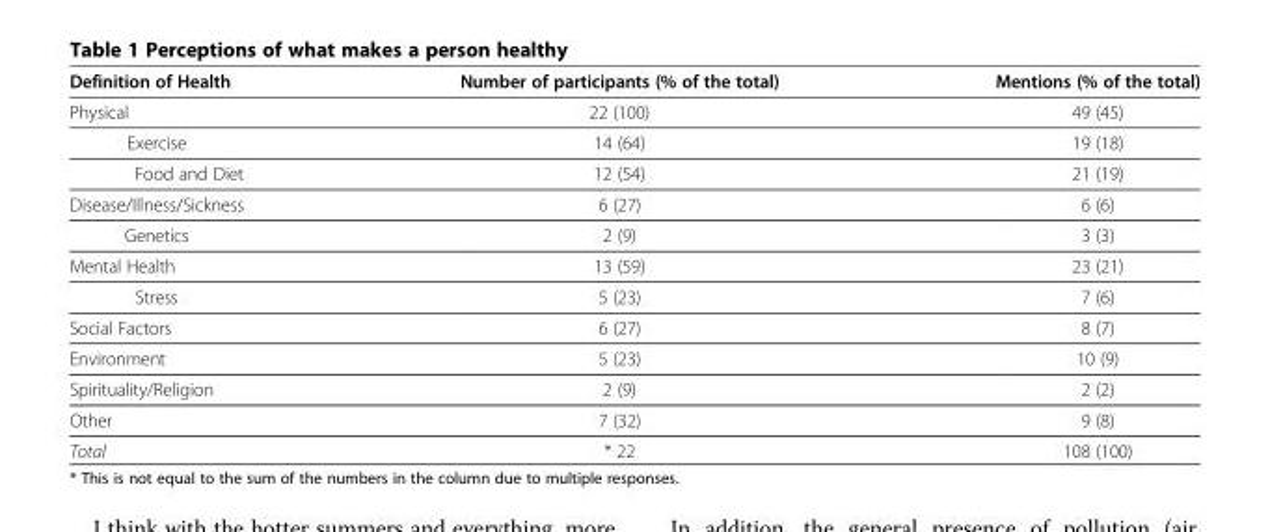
<table><thead><tr><td>Definition of Health</td><td>Number of participants (% of the total)</td><td>Mentions (% of the total)</td></tr></thead><tbody><tr><td>Physical</td><td>22 (100)</td><td>49 (45)</td></tr><tr><td>Exercise</td><td>14 (64)</td><td>19 (18)</td></tr><tr><td>Food and Diet</td><td>12 (54)</td><td>21 (19)</td></tr><tr><td>Disease/Illness/Sickness</td><td>6 (27)</td><td>6 (6)</td></tr><tr><td>Genetics</td><td>2 (9)</td><td>3 (3)</td></tr><tr><td>Mental Health</td><td>13 (59)</td><td>23 (21)</td></tr><tr><td>Stress</td><td>5 (23)</td><td>7 (6)</td></tr><tr><td>Social Factors</td><td>6 (27)</td><td>8 (7)</td></tr><tr><td>Environment</td><td>5 (23)</td><td>10 (9)</td></tr><tr><td>Spirituality/Religion</td><td>2 (9)</td><td>2 (2)</td></tr><tr><td>Other</td><td>7 (32)</td><td>9 (8)</td></tr><tr><td>Total</td><td>* 22</td><td>108 (100)</td></tr></tbody></table>